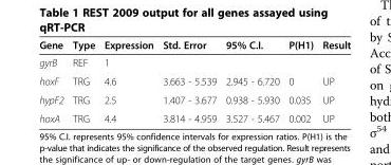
<table><thead><tr><td>Gene</td><td>Type</td><td>Expression</td><td>Std. Error</td><td>95% C.I.</td><td>P(H1)</td><td>Result</td></tr></thead><tbody><tr><td>gyrB</td><td>REF</td><td>1</td><td></td><td></td><td></td><td></td></tr><tr><td>hoxF</td><td>TRG</td><td>4.6</td><td>3.663 - 5.539</td><td>2.945 - 6.720</td><td>0</td><td>UP</td></tr><tr><td>hypF2</td><td>TRG</td><td>2.5</td><td>1.407 - 3.677</td><td>0.938 - 5.930</td><td>0.035</td><td>UP</td></tr><tr><td>hoxA</td><td>TRG</td><td>4.4</td><td>3.814 - 4.959</td><td>3.527 - 5.467</td><td>0.002</td><td>UP</td></tr></tbody></table>